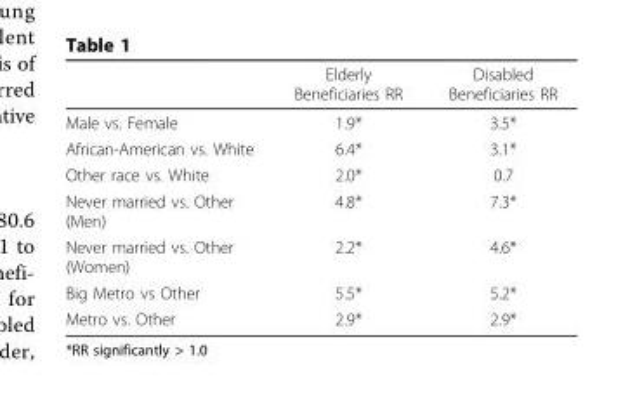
<table><thead><tr><td></td><td>Elderly Beneficiaries RR</td><td>Disabled Beneficiaries RR</td></tr></thead><tbody><tr><td>Male vs. Female</td><td>1.9*</td><td>3.5*</td></tr><tr><td>African-American vs. White</td><td>6.4*</td><td>3.1*</td></tr><tr><td>Other race vs. White</td><td>2.0*</td><td>0.7</td></tr><tr><td>Never married vs. Other (Men)</td><td>4.8*</td><td>7.3*</td></tr><tr><td>Never married vs. Other (Women)</td><td>2.2*</td><td>4.6*</td></tr><tr><td>Big Metro vs Other</td><td>5.5*</td><td>5.2*</td></tr><tr><td>Metro vs. Other</td><td>2.9*</td><td>2.9*</td></tr></tbody></table>